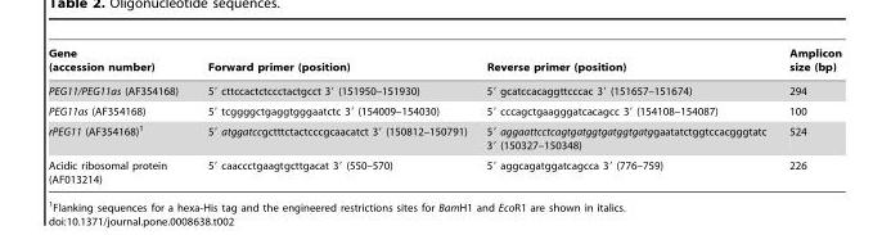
<table><thead><tr><td>Gene (accession number)</td><td>Forward primer (position)</td><td>Reverse primer (position)</td><td>Amplicon size (bp)</td></tr></thead><tbody><tr><td>PEG11/PEG11as (AF354168)</td><td>5′ cttccactctccctactgcct 3′ (151950–151930)</td><td>5′ gcatccacaggttcccac 3′ (151657–151674)</td><td>294</td></tr><tr><td>PEG11as (AF354168)</td><td>5′ tcggggctgaggtgggaatctc 3′ (154009–154030)</td><td>5′ cccagctgaagggatcacagcc 3′ (154108–154087)</td><td>100</td></tr><tr><td>rPEG11 (AF354168)<sup>1</sup></td><td>5′ atggatccgctttctactcccgcaacatct 3′ (150812–150791)</td><td>5′ aggaattcctcagtgatggtgatggtgatggaatatctggtccacgggtatc 3′ (150327–150348)</td><td>524</td></tr><tr><td>Acidic ribosomal protein (AF013214)</td><td>5′ caaccctgaagtgcttgacat 3′ (550–570)</td><td>5′ aggcagatggatcagcca 3′ (776–759)</td><td>226</td></tr></tbody></table>